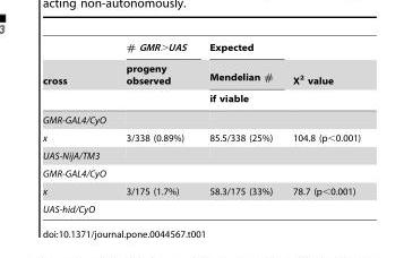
<table><thead><tr><td rowspan="3">cross</td><td rowspan="3"># GMR&gt;UAS progeny observed</td><td rowspan="3">Expected Mendelian # if viable</td><td rowspan="3">X<sup>2</sup> value</td></tr><tr></tr><tr></tr></thead><tbody><tr><td colspan="4">GMR-GAL4/CyO</td></tr><tr><td>x</td><td>3/338 (0.89%)</td><td>85.5/338 (25%)</td><td>104.8 (p&lt;0.001)</td></tr><tr><td colspan="4">UAS-NijA/TM3</td></tr><tr><td colspan="4">GMR-GAL4/CyO</td></tr><tr><td>x</td><td>3/175 (1.7%)</td><td>58.3/175 (33%)</td><td>78.7 (p&lt;0.001)</td></tr><tr><td>UAS-hid/CyO</td><td></td><td></td><td></td></tr></tbody></table>